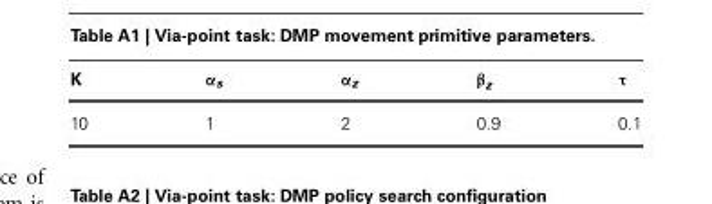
<table><thead><tr><td>K</td><td>α<sub>s</sub></td><td>α<sub>z</sub></td><td>β<sub>z</sub></td><td>τ</td></tr></thead><tbody><tr><td>10</td><td>1</td><td>2</td><td>0.9</td><td>0.1</td></tr></tbody></table>